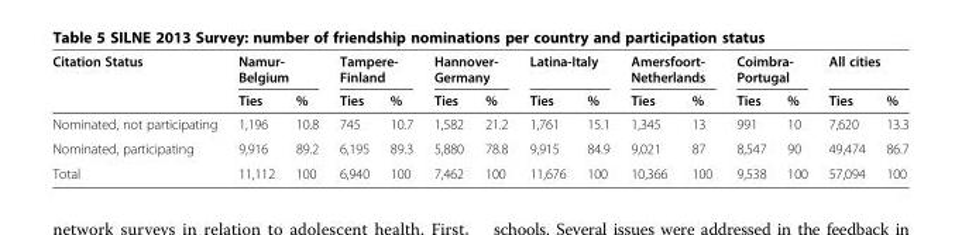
<table><thead><tr><td rowspan="2">Citation Status</td><td colspan="2">Namur- Belgium</td><td colspan="2">Tampere- Finland</td><td colspan="2">Hannover- Germany</td><td colspan="2">Latina-Italy</td><td colspan="2">Amersfoort- Netherlands</td><td colspan="2">Coimbra- Portugal</td><td colspan="2">All cities</td></tr><tr><td>Ties</td><td>%</td><td>Ties</td><td>%</td><td>Ties</td><td>%</td><td>Ties</td><td>%</td><td>Ties</td><td>%</td><td>Ties</td><td>%</td><td>Ties</td><td>%</td></tr></thead><tbody><tr><td>Nominated, not participating</td><td>1,196</td><td>10.8</td><td>745</td><td>10.7</td><td>1,582</td><td>21.2</td><td>1,761</td><td>15.1</td><td>1,345</td><td>13</td><td>991</td><td>10</td><td>7,620</td><td>13.3</td></tr><tr><td>Nominated, participating</td><td>9,916</td><td>89.2</td><td>6,195</td><td>89.3</td><td>5,880</td><td>78.8</td><td>9,915</td><td>84.9</td><td>9,021</td><td>87</td><td>8,547</td><td>90</td><td>49,474</td><td>86.7</td></tr><tr><td>Total</td><td>11,112</td><td>100</td><td>6,940</td><td>100</td><td>7,462</td><td>100</td><td>11,676</td><td>100</td><td>10,366</td><td>100</td><td>9,538</td><td>100</td><td>57,094</td><td>100</td></tr></tbody></table>